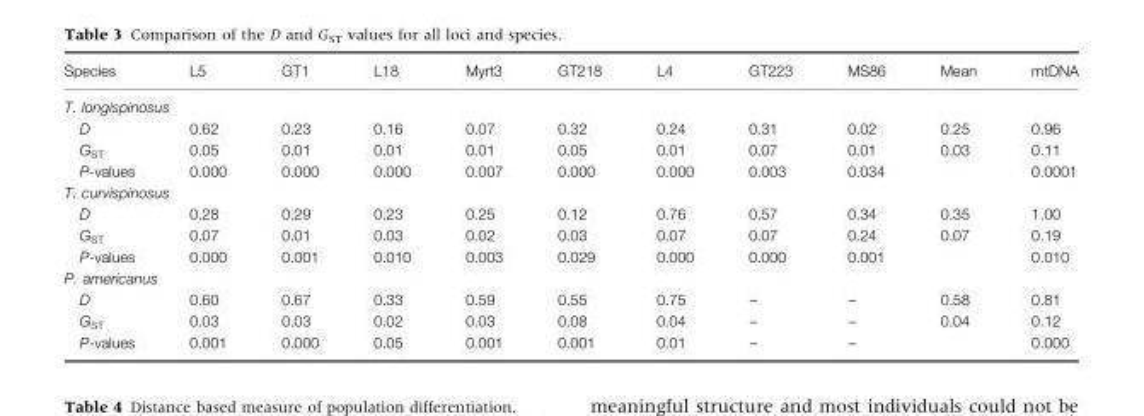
<table><thead><tr><td>Species</td><td>L5</td><td>GT1</td><td>L18</td><td>Myrt3</td><td>GT218</td><td>L4</td><td>GT223</td><td>MS86</td><td>Mean</td><td>mtDNA</td></tr></thead><tbody><tr><td colspan="11">T. longispinosus</td></tr><tr><td>D</td><td>0.62</td><td>0.23</td><td>0.16</td><td>0.07</td><td>0.32</td><td>0.24</td><td>0.31</td><td>0.02</td><td>0.25</td><td>0.96</td></tr><tr><td>G<sub>ST</sub></td><td>0.05</td><td>0.01</td><td>0.01</td><td>0.01</td><td>0.05</td><td>0.01</td><td>0.07</td><td>0.01</td><td>0.03</td><td>0.11</td></tr><tr><td>P-values</td><td>0.000</td><td>0.000</td><td>0.000</td><td>0.007</td><td>0.000</td><td>0.000</td><td>0.003</td><td>0.034</td><td></td><td>0.0001</td></tr><tr><td colspan="11">T. curvispinosus</td></tr><tr><td>D</td><td>0.28</td><td>0.29</td><td>0.23</td><td>0.25</td><td>0.12</td><td>0.76</td><td>0.57</td><td>0.34</td><td>0.35</td><td>1.00</td></tr><tr><td>G<sub>ST</sub></td><td>0.07</td><td>0.01</td><td>0.03</td><td>0.02</td><td>0.03</td><td>0.07</td><td>0.07</td><td>0.24</td><td>0.07</td><td>0.19</td></tr><tr><td>P-values</td><td>0.000</td><td>0.001</td><td>0.010</td><td>0.003</td><td>0.029</td><td>0.000</td><td>0.000</td><td>0.001</td><td></td><td>0.010</td></tr><tr><td colspan="11">P. americanus</td></tr><tr><td>D</td><td>0.60</td><td>0.67</td><td>0.33</td><td>0.59</td><td>0.55</td><td>0.75</td><td>–</td><td>–</td><td>0.58</td><td>0.81</td></tr><tr><td>G<sub>ST</sub></td><td>0.03</td><td>0.03</td><td>0.02</td><td>0.03</td><td>0.08</td><td>0.04</td><td>–</td><td>–</td><td>0.04</td><td>0.12</td></tr><tr><td>P-values</td><td>0.001</td><td>0.000</td><td>0.05</td><td>0.001</td><td>0.001</td><td>0.01</td><td>–</td><td>–</td><td></td><td>0.000</td></tr></tbody></table>